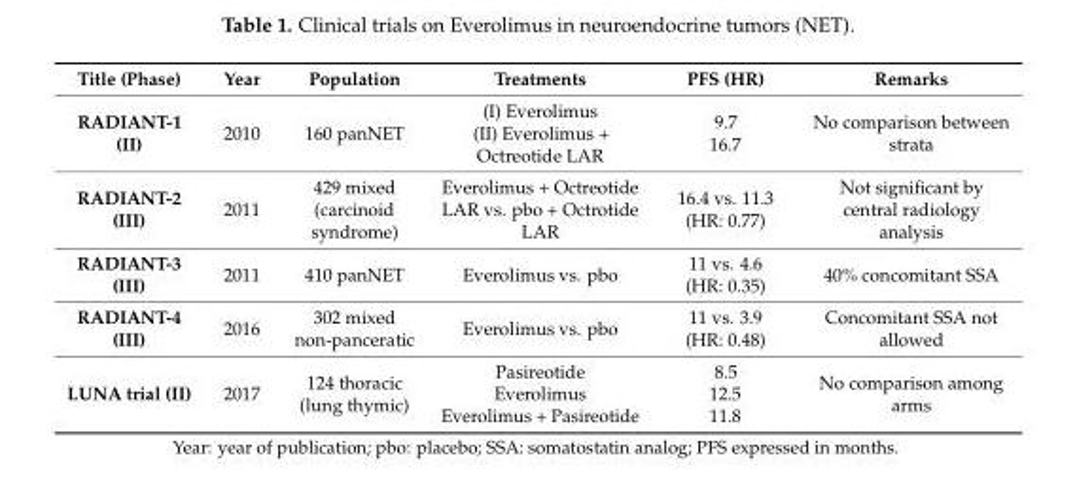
<table><thead><tr><td>Title (Phase)</td><td>Year</td><td>Population</td><td>Treatments</td><td>PFS (HR)</td><td>Remarks</td></tr></thead><tbody><tr><td>RADIANT-1 (II)</td><td>2010</td><td>160 panNET</td><td>(I) Everolimus (II) Everolimus + Octreotide LAR</td><td>9.7 16.7</td><td>No comparison between strata</td></tr><tr><td>RADIANT-2 (III)</td><td>2011</td><td>429 mixed (carcinoid syndrome)</td><td>Everolimus + Octreotide LAR vs. pbo + Octrotide LAR</td><td>16.4 vs. 11.3 (HR: 0.77)</td><td>Not significant by central radiology analysis</td></tr><tr><td>RADIANT-3 (III)</td><td>2011</td><td>410 panNET</td><td>Everolimus vs. pbo</td><td>11 vs. 4.6 (HR: 0.35)</td><td>40% concomitant SSA</td></tr><tr><td>RADIANT-4 (III)</td><td>2016</td><td>302 mixed non-panceratic</td><td>Everolimus vs. pbo</td><td>11 vs. 3.9 (HR: 0.48)</td><td>Concomitant SSA not allowed</td></tr><tr><td>LUNA trial (II)</td><td>2017</td><td>124 thoracic (lung thymic)</td><td>Pasireotide Everolimus Everolimus + Pasireotide</td><td>8.5 12.5 11.8</td><td>No comparison among arms</td></tr></tbody></table>